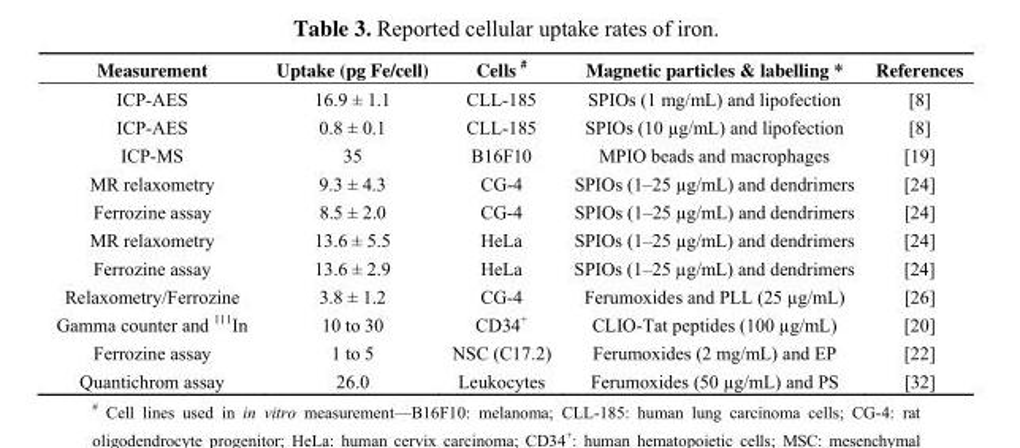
<table><thead><tr><td>Measurement</td><td>Uptake (pg Fe/cell)</td><td>Cells #</td><td>Magnetic particles &amp; labelling *</td><td>References</td></tr></thead><tbody><tr><td>ICP-AES</td><td>16.9 ± 1.1</td><td>CLL-185</td><td>SPIOs (1 mg/mL) and lipofection</td><td>[8]</td></tr><tr><td>ICP-AES</td><td>0.8 ± 0.1</td><td>CLL-185</td><td>SPIOs (10 µg/mL) and lipofection</td><td>[8]</td></tr><tr><td>ICP-MS</td><td>35</td><td>B16F10</td><td>MPIO beads and macrophages</td><td>[19]</td></tr><tr><td>MR relaxometry</td><td>9.3 ± 4.3</td><td>CG-4</td><td>SPIOs (1–25 µg/mL) and dendrimers</td><td>[24]</td></tr><tr><td>Ferrozine assay</td><td>8.5 ± 2.0</td><td>CG-4</td><td>SPIOs (1–25 µg/mL) and dendrimers</td><td>[24]</td></tr><tr><td>MR relaxometry</td><td>13.6 ± 5.5</td><td>HeLa</td><td>SPIOs (1–25 µg/mL) and dendrimers</td><td>[24]</td></tr><tr><td>Ferrozine assay</td><td>13.6 ± 2.9</td><td>HeLa</td><td>SPIOs (1–25 µg/mL) and dendrimers</td><td>[24]</td></tr><tr><td>Relaxometry/Ferrozine</td><td>3.8 ± 1.2</td><td>CG-4</td><td>Ferumoxides and PLL (25 µg/mL)</td><td>[26]</td></tr><tr><td>Gamma counter and <sup>111</sup>In</td><td>10 to 30</td><td>CD34<sup>+</sup></td><td>CLIO-Tat peptides (100 µg/mL)</td><td>[20]</td></tr><tr><td>Ferrozine assay</td><td>1 to 5</td><td>NSC (C17.2)</td><td>Ferumoxides (2 mg/mL) and EP</td><td>[22]</td></tr><tr><td>Quantichrom assay</td><td>26.0</td><td>Leukocytes</td><td>Ferumoxides (50 µg/mL) and PS</td><td>[32]</td></tr></tbody></table>